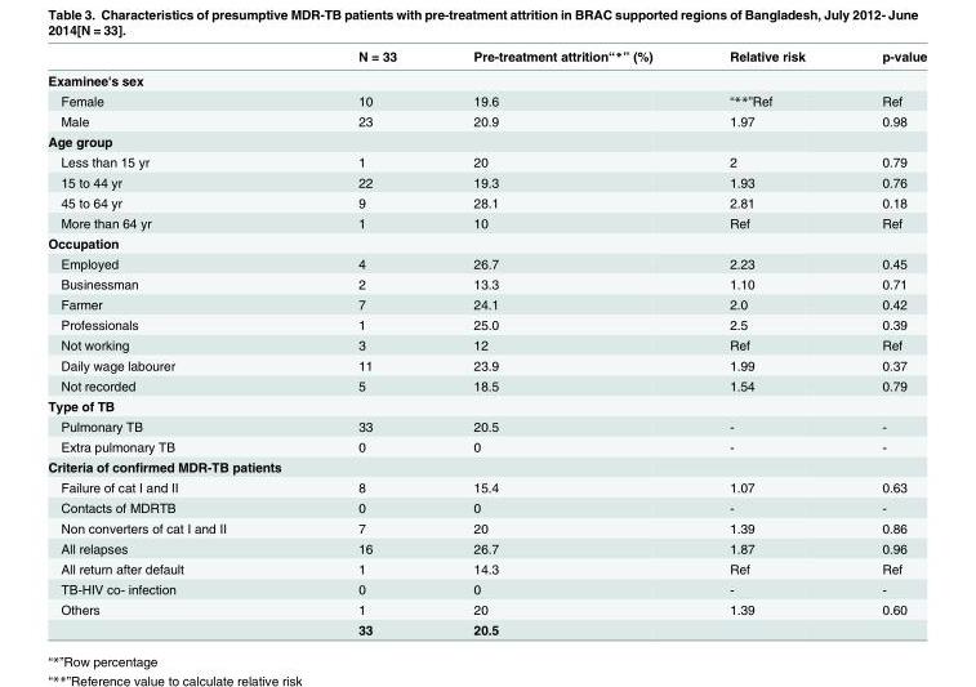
<table><thead><tr><td></td><td>N = 33</td><td>Pre-treatment attrition“*” (%)</td><td>Relative risk</td><td>p-value</td></tr></thead><tbody><tr><td colspan="5">Examinee&#x27;s sex</td></tr><tr><td>Female</td><td>10</td><td>19.6</td><td>“**”Ref</td><td>Ref</td></tr><tr><td>Male</td><td>23</td><td>20.9</td><td>1.97</td><td>0.98</td></tr><tr><td colspan="5">Age group</td></tr><tr><td>Less than 15 yr</td><td>1</td><td>20</td><td>2</td><td>0.79</td></tr><tr><td>15 to 44 yr</td><td>22</td><td>19.3</td><td>1.93</td><td>0.76</td></tr><tr><td>45 to 64 yr</td><td>9</td><td>28.1</td><td>2.81</td><td>0.18</td></tr><tr><td>More than 64 yr</td><td>1</td><td>10</td><td>Ref</td><td>Ref</td></tr><tr><td colspan="5">Occupation</td></tr><tr><td>Employed</td><td>4</td><td>26.7</td><td>2.23</td><td>0.45</td></tr><tr><td>Businessman</td><td>2</td><td>13.3</td><td>1.10</td><td>0.71</td></tr><tr><td>Farmer</td><td>7</td><td>24.1</td><td>2.0</td><td>0.42</td></tr><tr><td>Professionals</td><td>1</td><td>25.0</td><td>2.5</td><td>0.39</td></tr><tr><td>Not working</td><td>3</td><td>12</td><td>Ref</td><td>Ref</td></tr><tr><td>Daily wage labourer</td><td>11</td><td>23.9</td><td>1.99</td><td>0.37</td></tr><tr><td>Not recorded</td><td>5</td><td>18.5</td><td>1.54</td><td>0.79</td></tr><tr><td colspan="5">Type of TB</td></tr><tr><td>Pulmonary TB</td><td>33</td><td>20.5</td><td>-</td><td>-</td></tr><tr><td>Extra pulmonary TB</td><td>0</td><td>0</td><td>-</td><td>-</td></tr><tr><td colspan="5">Criteria of confirmed MDR-TB patients</td></tr><tr><td>Failure of cat I and II</td><td>8</td><td>15.4</td><td>1.07</td><td>0.63</td></tr><tr><td>Contacts of MDRTB</td><td>0</td><td>0</td><td>-</td><td>-</td></tr><tr><td>Non converters of cat I and II</td><td>7</td><td>20</td><td>1.39</td><td>0.86</td></tr><tr><td>All relapses</td><td>16</td><td>26.7</td><td>1.87</td><td>0.96</td></tr><tr><td>All return after default</td><td>1</td><td>14.3</td><td>Ref</td><td>Ref</td></tr><tr><td>TB-HIV co- infection</td><td>0</td><td>0</td><td>-</td><td>-</td></tr><tr><td rowspan="2">Others</td><td>1</td><td>20</td><td>1.39</td><td>0.60</td></tr><tr><td>33</td><td>20.5</td><td></td><td></td></tr></tbody></table>